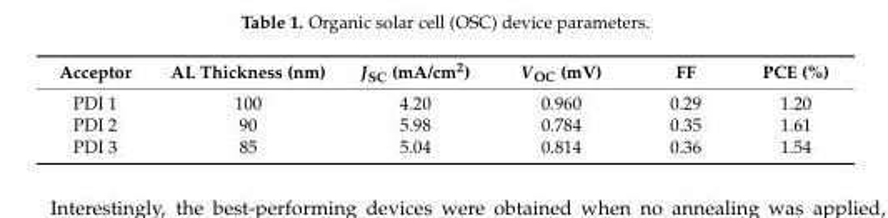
<table><thead><tr><td>Acceptor</td><td>AL Thickness (nm)</td><td>JSC (mA/cm2)</td><td>VOC (mV)</td><td>FF</td><td>PCE (%)</td></tr></thead><tbody><tr><td>PDI 1</td><td>100</td><td>4.20</td><td>0.960</td><td>0.29</td><td>1.20</td></tr><tr><td>PDI 2</td><td>90</td><td>5.98</td><td>0.784</td><td>0.35</td><td>1.61</td></tr><tr><td>PDI 3</td><td>85</td><td>5.04</td><td>0.814</td><td>0.36</td><td>1.54</td></tr></tbody></table>